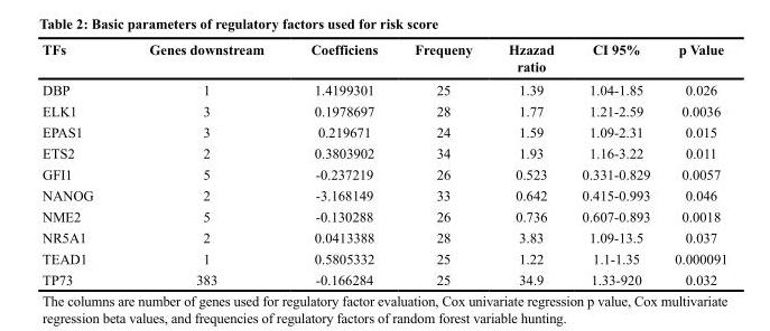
<table><thead><tr><td>TFs</td><td>Genes downstream</td><td>Coefficiens</td><td>Frequeny</td><td>Hzazad ratio</td><td>CI 95%</td><td>p Value</td></tr></thead><tbody><tr><td>DBP</td><td>1</td><td>1.4199301</td><td>25</td><td>1.39</td><td>1.04-1.85</td><td>0.026</td></tr><tr><td>ELK1</td><td>3</td><td>0.1978697</td><td>28</td><td>1.77</td><td>1.21-2.59</td><td>0.0036</td></tr><tr><td>EPAS1</td><td>3</td><td>0.219671</td><td>24</td><td>1.59</td><td>1.09-2.31</td><td>0.015</td></tr><tr><td>ETS2</td><td>2</td><td>0.3803902</td><td>34</td><td>1.93</td><td>1.16-3.22</td><td>0.011</td></tr><tr><td>GFI1</td><td>5</td><td>-0.237219</td><td>26</td><td>0.523</td><td>0.331-0.829</td><td>0.0057</td></tr><tr><td>NANOG</td><td>2</td><td>-3.168149</td><td>33</td><td>0.642</td><td>0.415-0.993</td><td>0.046</td></tr><tr><td>NME2</td><td>5</td><td>-0.130288</td><td>26</td><td>0.736</td><td>0.607-0.893</td><td>0.0018</td></tr><tr><td>NR5A1</td><td>2</td><td>0.0413388</td><td>28</td><td>3.83</td><td>1.09-13.5</td><td>0.037</td></tr><tr><td>TEAD1</td><td>1</td><td>0.5805332</td><td>25</td><td>1.22</td><td>1.1-1.35</td><td>0.000091</td></tr><tr><td>TP73</td><td>383</td><td>-0.166284</td><td>25</td><td>34.9</td><td>1.33-920</td><td>0.032</td></tr></tbody></table>